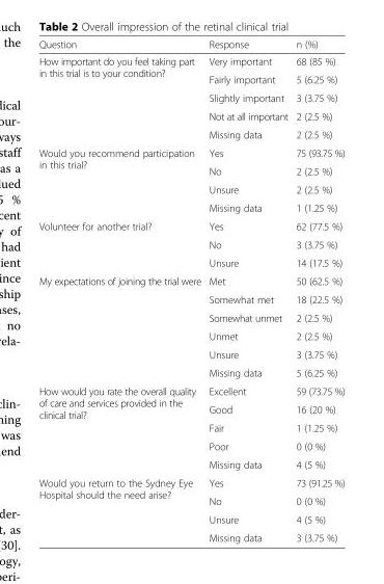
<table><thead><tr><td>Question</td><td>Response</td><td>n (%)</td></tr></thead><tbody><tr><td rowspan="5">How important do you feel taking part in this trial is to your condition?</td><td>Very important</td><td>68 (85 %)</td></tr><tr><td>Fairly important</td><td>5 (6.25 %)</td></tr><tr><td>Slightly important</td><td>3 (3.75 %)</td></tr><tr><td>Not at all important</td><td>2 (2.5 %)</td></tr><tr><td>Missing data</td><td>2 (2.5 %)</td></tr><tr><td rowspan="4">Would you recommend participation in this trial?</td><td>Yes</td><td>75 (93.75 %)</td></tr><tr><td>No</td><td>2 (2.5 %)</td></tr><tr><td>Unsure</td><td>2 (2.5 %)</td></tr><tr><td>Missing data</td><td>1 (1.25 %)</td></tr><tr><td rowspan="3">Volunteer for another trial?</td><td>Yes</td><td>62 (77.5 %)</td></tr><tr><td>No</td><td>3 (3.75 %)</td></tr><tr><td>Unsure</td><td>14 (17.5 %)</td></tr><tr><td rowspan="6">My expectations of joining the trial were</td><td>Met</td><td>50 (62.5 %)</td></tr><tr><td>Somewhat met</td><td>18 (22.5 %)</td></tr><tr><td>Somewhat unmet</td><td>2 (2.5 %)</td></tr><tr><td>Unmet</td><td>2 (2.5 %)</td></tr><tr><td>Unsure</td><td>3 (3.75 %)</td></tr><tr><td>Missing data</td><td>5 (6.25 %)</td></tr><tr><td rowspan="5">How would you rate the overall quality of care and services provided in the clinical trial?</td><td>Excellent</td><td>59 (73.75 %)</td></tr><tr><td>Good</td><td>16 (20 %)</td></tr><tr><td>Fair</td><td>1 (1.25 %)</td></tr><tr><td>Poor</td><td>0 (0 %)</td></tr><tr><td>Missing data</td><td>4 (5 %)</td></tr><tr><td rowspan="4">Would you return to the Sydney Eye Hospital should the need arise?</td><td>Yes</td><td>73 (91.25 %)</td></tr><tr><td>No</td><td>0 (0 %)</td></tr><tr><td>Unsure</td><td>4 (5 %)</td></tr><tr><td>Missing data</td><td>3 (3.75 %)</td></tr></tbody></table>